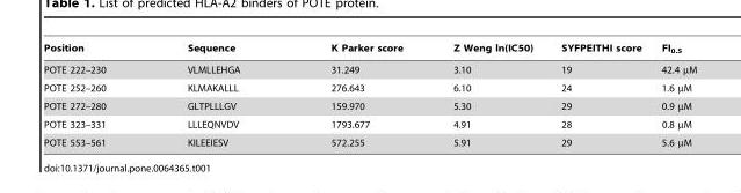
<table><thead><tr><td>Position</td><td>Sequence</td><td>K Parker score</td><td>Z Weng ln(IC50)</td><td>SYFPEITHI score</td><td>FI<sub>0.5</sub></td></tr></thead><tbody><tr><td>POTE 222–230</td><td>VLMLLEHGA</td><td>31.249</td><td>3.10</td><td>19</td><td>42.4 µM</td></tr><tr><td>POTE 252–260</td><td>KLMAKALLL</td><td>276.643</td><td>6.10</td><td>24</td><td>1.6 µM</td></tr><tr><td>POTE 272–280</td><td>GLTPLLLGV</td><td>159.970</td><td>5.30</td><td>29</td><td>0.9 µM</td></tr><tr><td>POTE 323–331</td><td>LLLEQNVDV</td><td>1793.677</td><td>4.91</td><td>28</td><td>0.8 µM</td></tr><tr><td>POTE 553–561</td><td>KILEEIESV</td><td>572.255</td><td>5.91</td><td>29</td><td>5.6 µM</td></tr></tbody></table>